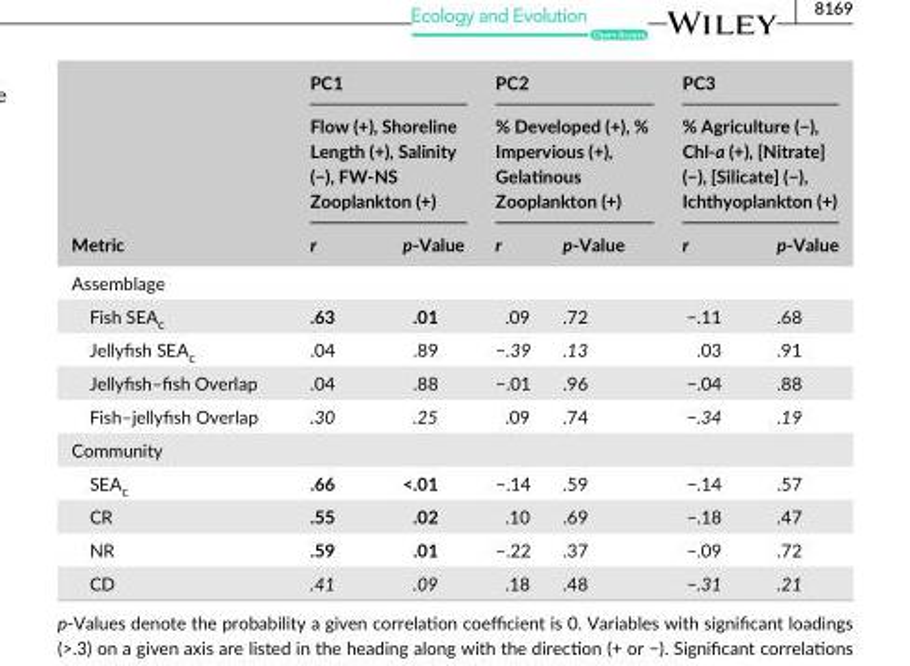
<table><thead><tr><td rowspan="3">Metric</td><td rowspan="2" colspan="2">PC1 Flow (+), Shoreline Length (+), Salinity (−), FW- NS Zooplankton (+)</td><td rowspan="2" colspan="2">PC2 % Developed (+), % Impervious (+), Gelatinous Zooplankton (+)</td><td rowspan="2" colspan="2">PC3 % Agriculture (−), Chl- a (+), [Nitrate] (−), [Silicate] (−), Ichthyoplankton (+)</td></tr><tr></tr><tr><td>r</td><td>p- Value</td><td>r</td><td>p- Value</td><td>r</td><td>p- Value</td></tr></thead><tbody><tr><td colspan="7">Assemblage</td></tr><tr><td>Fish SEA<sub>c</sub></td><td>.63</td><td>.01</td><td>.09</td><td>.72</td><td>−.11</td><td>.68</td></tr><tr><td>Jellyfish SEA<sub>c</sub></td><td>.04</td><td>.89</td><td>−.39</td><td>.13</td><td>.03</td><td>.91</td></tr><tr><td>Jellyfish–fish Overlap</td><td>.04</td><td>.88</td><td>−.01</td><td>.96</td><td>−.04</td><td>.88</td></tr><tr><td>Fish–jellyfish Overlap</td><td>.30</td><td>.25</td><td>.09</td><td>.74</td><td>−.34</td><td>.19</td></tr><tr><td colspan="7">Community</td></tr><tr><td>SEA<sub>c</sub></td><td>.66</td><td>&lt;.01</td><td>−.14</td><td>.59</td><td>−.14</td><td>.57</td></tr><tr><td>CR</td><td>.55</td><td>.02</td><td>.10</td><td>.69</td><td>−.18</td><td>.47</td></tr><tr><td>NR</td><td>.59</td><td>.01</td><td>−.22</td><td>.37</td><td>−.09</td><td>.72</td></tr><tr><td>CD</td><td>.41</td><td>.09</td><td>.18</td><td>.48</td><td>−.31</td><td>.21</td></tr></tbody></table>